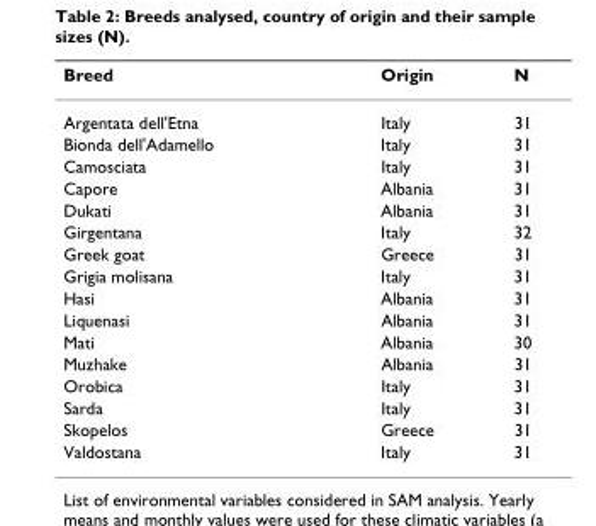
<table><thead><tr><td>Breed</td><td>Origin</td><td>N</td></tr></thead><tbody><tr><td>Argentata dell&#x27;Etna</td><td>Italy</td><td>31</td></tr><tr><td>Bionda dell&#x27;Adamello</td><td>Italy</td><td>31</td></tr><tr><td>Camosciata</td><td>Italy</td><td>31</td></tr><tr><td>Capore</td><td>Albania</td><td>31</td></tr><tr><td>Dukati</td><td>Albania</td><td>31</td></tr><tr><td>Girgentana</td><td>Italy</td><td>32</td></tr><tr><td>Greek goat</td><td>Greece</td><td>31</td></tr><tr><td>Grigia molisana</td><td>Italy</td><td>31</td></tr><tr><td>Hasi</td><td>Albania</td><td>31</td></tr><tr><td>Liquenasi</td><td>Albania</td><td>31</td></tr><tr><td>Mati</td><td>Albania</td><td>30</td></tr><tr><td>Muzhake</td><td>Albania</td><td>31</td></tr><tr><td>Orobica</td><td>Italy</td><td>31</td></tr><tr><td>Sarda</td><td>Italy</td><td>31</td></tr><tr><td>Skopelos</td><td>Greece</td><td>31</td></tr><tr><td>Valdostana</td><td>Italy</td><td>31</td></tr></tbody></table>